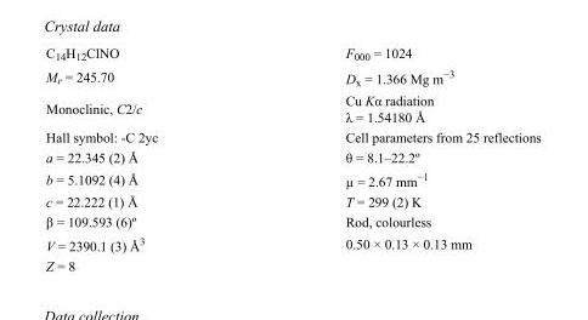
<table><tbody><tr><td>C<sub>14</sub>H<sub>12</sub>ClNO</td><td>F000 = 1024</td></tr><tr><td>M<sub>r</sub> = 245.70</td><td>D<sub>x</sub> = 1.366 Mg m<sup>−3</sup></td></tr><tr><td>Monoclinic, C2/c</td><td>Cu Kα radiation λ = 1.54180 Å</td></tr><tr><td>Hall symbol: -C 2yc</td><td>Cell parameters from 25 reflections</td></tr><tr><td>a = 22.345 (2) Å</td><td>θ = 8.1–22.2º</td></tr><tr><td>b = 5.1092 (4) Å</td><td>µ = 2.67 mm<sup>−1</sup></td></tr><tr><td>c = 22.222 (1) Å</td><td>T = 299 (2) K</td></tr><tr><td>β = 109.593 (6)º</td><td>Rod, colourless</td></tr><tr><td>V = 2390.1 (3) Å<sup>3</sup></td><td>0.50 × 0.13 × 0.13 mm</td></tr><tr><td>Z = 8</td><td></td></tr></tbody></table>